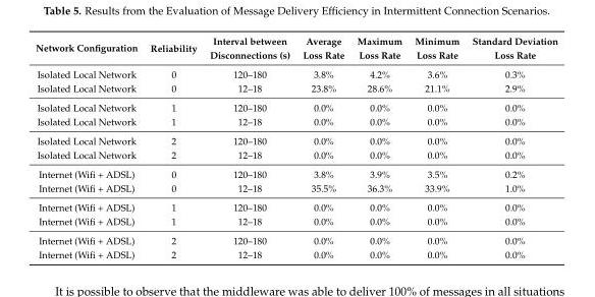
<table><thead><tr><td>Network Configuration</td><td>Reliability</td><td>Interval between Disconnections (s)</td><td>Average Loss Rate</td><td>Maximum Loss Rate</td><td>Minimum Loss Rate</td><td>Standard Deviation Loss Rate</td></tr></thead><tbody><tr><td>Isolated Local Network</td><td>0</td><td>120–180</td><td>3.8%</td><td>4.2%</td><td>3.6%</td><td>0.3%</td></tr><tr><td>Isolated Local Network</td><td>0</td><td>12–18</td><td>23.8%</td><td>28.6%</td><td>21.1%</td><td>2.9%</td></tr><tr><td>Isolated Local Network</td><td>1</td><td>120–180</td><td>0.0%</td><td>0.0%</td><td>0.0%</td><td>0.0%</td></tr><tr><td>Isolated Local Network</td><td>1</td><td>12–18</td><td>0.0%</td><td>0.0%</td><td>0.0%</td><td>0.0%</td></tr><tr><td>Isolated Local Network</td><td>2</td><td>120–180</td><td>0.0%</td><td>0.0%</td><td>0.0%</td><td>0.0%</td></tr><tr><td>Isolated Local Network</td><td>2</td><td>12–18</td><td>0.0%</td><td>0.0%</td><td>0.0%</td><td>0.0%</td></tr><tr><td>Internet (Wifi + ADSL)</td><td>0</td><td>120–180</td><td>3.8%</td><td>3.9%</td><td>3.5%</td><td>0.2%</td></tr><tr><td>Internet (Wifi + ADSL)</td><td>0</td><td>12–18</td><td>35.5%</td><td>36.3%</td><td>33.9%</td><td>1.0%</td></tr><tr><td>Internet (Wifi + ADSL)</td><td>1</td><td>120–180</td><td>0.0%</td><td>0.0%</td><td>0.0%</td><td>0.0%</td></tr><tr><td>Internet (Wifi + ADSL)</td><td>1</td><td>12–18</td><td>0.0%</td><td>0.0%</td><td>0.0%</td><td>0.0%</td></tr><tr><td>Internet (Wifi + ADSL)</td><td>2</td><td>120–180</td><td>0.0%</td><td>0.0%</td><td>0.0%</td><td>0.0%</td></tr><tr><td>Internet (Wifi + ADSL)</td><td>2</td><td>12–18</td><td>0.0%</td><td>0.0%</td><td>0.0%</td><td>0.0%</td></tr></tbody></table>